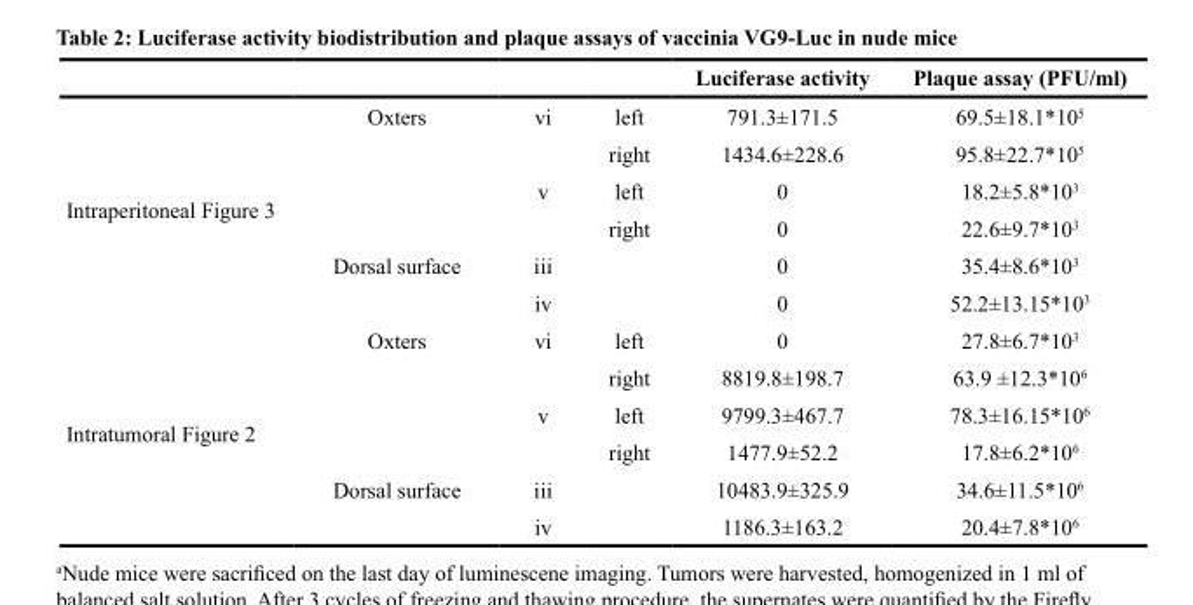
<table><thead><tr><td></td><td></td><td></td><td></td><td>Luciferase activity</td><td>Plaque assay (PFU/ml)</td></tr></thead><tbody><tr><td rowspan="6">Intraperitoneal Figure 3</td><td>Oxters</td><td>vi</td><td>left</td><td>791.3±171.5</td><td>69.5±18.1*10<sup>5</sup></td></tr><tr><td></td><td></td><td>right</td><td>1434.6±228.6</td><td>95.8±22.7*10<sup>5</sup></td></tr><tr><td></td><td>v</td><td>left</td><td>0</td><td>18.2±5.8*10<sup>3</sup></td></tr><tr><td></td><td></td><td>right</td><td>0</td><td>22.6±9.7*10<sup>3</sup></td></tr><tr><td>Dorsal surface</td><td>iii</td><td></td><td>0</td><td>35.4±8.6*10<sup>3</sup></td></tr><tr><td></td><td>iv</td><td></td><td>0</td><td>52.2±13.15*10<sup>3</sup></td></tr><tr><td rowspan="6">Intratumoral Figure 2</td><td>Oxters</td><td>vi</td><td>left</td><td>0</td><td>27.8±6.7*10<sup>3</sup></td></tr><tr><td></td><td></td><td>right</td><td>8819.8±198.7</td><td>63.9 ±12.3*10<sup>6</sup></td></tr><tr><td></td><td>v</td><td>left</td><td>9799.3±467.7</td><td>78.3±16.15*10<sup>6</sup></td></tr><tr><td></td><td></td><td>right</td><td>1477.9±52.2</td><td>17.8±6.2*10<sup>6</sup></td></tr><tr><td>Dorsal surface</td><td>iii</td><td></td><td>10483.9±325.9</td><td>34.6±11.5*10<sup>6</sup></td></tr><tr><td></td><td>iv</td><td></td><td>1186.3±163.2</td><td>20.4±7.8*10<sup>6</sup></td></tr></tbody></table>